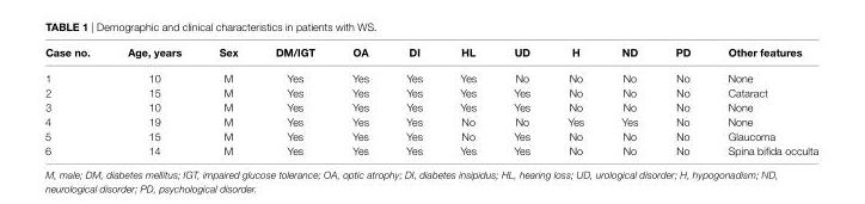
<table><thead><tr><td>case no.</td><td>age, years</td><td>sex</td><td>DM/igT</td><td>Oa</td><td>Di</td><td>hl</td><td>UD</td><td>h</td><td>nD</td><td>PD</td><td>Other features</td></tr></thead><tbody><tr><td>1</td><td>10</td><td>M</td><td>Yes</td><td>Yes</td><td>Yes</td><td>Yes</td><td>No</td><td>No</td><td>No</td><td>No</td><td>None</td></tr><tr><td>2</td><td>15</td><td>M</td><td>Yes</td><td>Yes</td><td>Yes</td><td>Yes</td><td>Yes</td><td>No</td><td>No</td><td>No</td><td>Cataract</td></tr><tr><td>3</td><td>10</td><td>M</td><td>Yes</td><td>Yes</td><td>Yes</td><td>Yes</td><td>Yes</td><td>No</td><td>No</td><td>No</td><td>None</td></tr><tr><td>4</td><td>19</td><td>M</td><td>Yes</td><td>Yes</td><td>Yes</td><td>No</td><td>No</td><td>Yes</td><td>Yes</td><td>No</td><td>None</td></tr><tr><td>5</td><td>15</td><td>M</td><td>Yes</td><td>Yes</td><td>Yes</td><td>No</td><td>Yes</td><td>No</td><td>No</td><td>No</td><td>Glaucoma</td></tr><tr><td>6</td><td>14</td><td>M</td><td>Yes</td><td>Yes</td><td>Yes</td><td>Yes</td><td>Yes</td><td>No</td><td>No</td><td>No</td><td>Spina bifida occulta</td></tr></tbody></table>